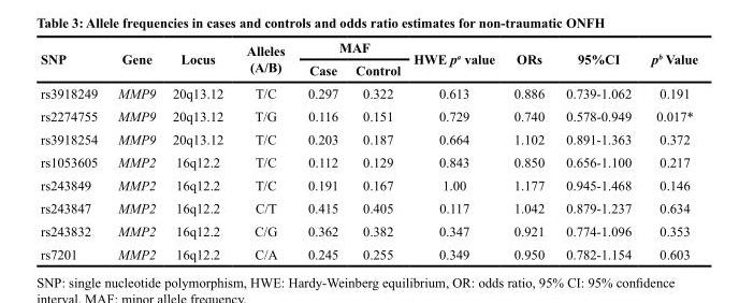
<table><thead><tr><td rowspan="2">SNP</td><td rowspan="2">Gene</td><td rowspan="2">Locus</td><td rowspan="2">Alleles (A/B)</td><td colspan="2">MAF</td><td rowspan="2">HWE p<sup>a</sup> value</td><td rowspan="2">ORs</td><td rowspan="2">95%CI</td><td rowspan="2">p<sup>b</sup> Value</td></tr><tr><td>Case</td><td>Control</td></tr></thead><tbody><tr><td>rs3918249</td><td>MMP9</td><td>20q13.12</td><td>T/C</td><td>0.297</td><td>0.322</td><td>0.613</td><td>0.886</td><td>0.739-1.062</td><td>0.191</td></tr><tr><td>rs2274755</td><td>MMP9</td><td>20q13.12</td><td>T/G</td><td>0.116</td><td>0.151</td><td>0.729</td><td>0.740</td><td>0.578-0.949</td><td>0.017*</td></tr><tr><td>rs3918254</td><td>MMP9</td><td>20q13.12</td><td>T/C</td><td>0.203</td><td>0.187</td><td>0.664</td><td>1.102</td><td>0.891-1.363</td><td>0.372</td></tr><tr><td>rs1053605</td><td>MMP2</td><td>16q12.2</td><td>T/C</td><td>0.112</td><td>0.129</td><td>0.843</td><td>0.850</td><td>0.656-1.100</td><td>0.217</td></tr><tr><td>rs243849</td><td>MMP2</td><td>16q12.2</td><td>T/C</td><td>0.191</td><td>0.167</td><td>1.00</td><td>1.177</td><td>0.945-1.468</td><td>0.146</td></tr><tr><td>rs243847</td><td>MMP2</td><td>16q12.2</td><td>C/T</td><td>0.415</td><td>0.405</td><td>0.117</td><td>1.042</td><td>0.879-1.237</td><td>0.634</td></tr><tr><td>rs243832</td><td>MMP2</td><td>16q12.2</td><td>C/G</td><td>0.362</td><td>0.382</td><td>0.347</td><td>0.921</td><td>0.774-1.096</td><td>0.353</td></tr><tr><td>rs7201</td><td>MMP2</td><td>16q12.2</td><td>C/A</td><td>0.245</td><td>0.255</td><td>0.349</td><td>0.950</td><td>0.782-1.154</td><td>0.603</td></tr></tbody></table>